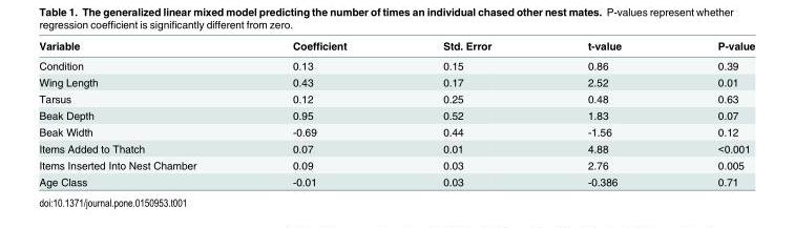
<table><thead><tr><td>Variable</td><td>Coefficient</td><td>Std. Error</td><td>t-value</td><td>P-value</td></tr></thead><tbody><tr><td>Condition</td><td>0.13</td><td>0.15</td><td>0.86</td><td>0.39</td></tr><tr><td>Wing Length</td><td>0.43</td><td>0.17</td><td>2.52</td><td>0.01</td></tr><tr><td>Tarsus</td><td>0.12</td><td>0.25</td><td>0.48</td><td>0.63</td></tr><tr><td>Beak Depth</td><td>0.95</td><td>0.52</td><td>1.83</td><td>0.07</td></tr><tr><td>Beak Width</td><td>-0.69</td><td>0.44</td><td>-1.56</td><td>0.12</td></tr><tr><td>Items Added to Thatch</td><td>0.07</td><td>0.01</td><td>4.88</td><td>&lt;0.001</td></tr><tr><td>Items Inserted Into Nest Chamber</td><td>0.09</td><td>0.03</td><td>2.76</td><td>0.005</td></tr><tr><td>Age Class</td><td>-0.01</td><td>0.03</td><td>-0.386</td><td>0.71</td></tr></tbody></table>